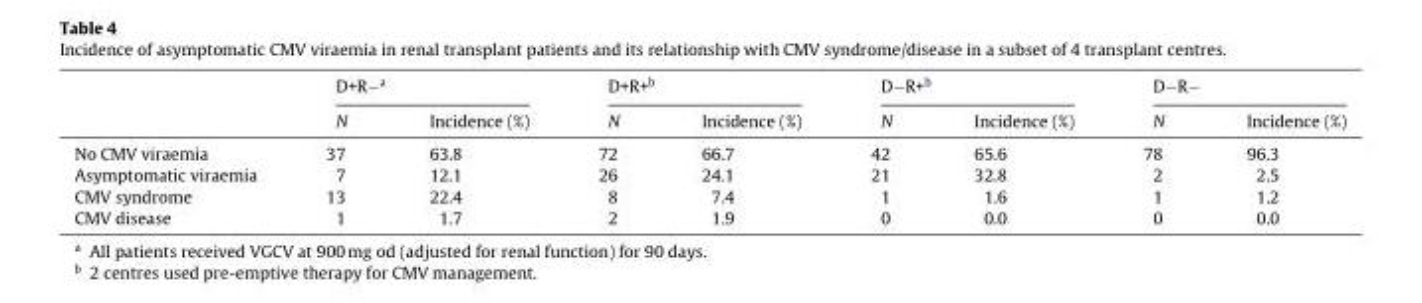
<table><thead><tr><td rowspan="2"></td><td colspan="2">D+R−a</td><td colspan="2">D+R+<sup>b</sup></td><td colspan="2">D−R+<sup>b</sup></td><td colspan="2">D−R−</td></tr><tr><td>N</td><td>Incidence (%)</td><td>N</td><td>Incidence (%)</td><td>N</td><td>Incidence (%)</td><td>N</td><td>Incidence (%)</td></tr></thead><tbody><tr><td>No CMV viraemia</td><td>37</td><td>63.8</td><td>72</td><td>66.7</td><td>42</td><td>65.6</td><td>78</td><td>96.3</td></tr><tr><td>Asymptomatic viraemia</td><td>7</td><td>12.1</td><td>26</td><td>24.1</td><td>21</td><td>32.8</td><td>2</td><td>2.5</td></tr><tr><td>CMV syndrome</td><td>13</td><td>22.4</td><td>8</td><td>7.4</td><td>1</td><td>1.6</td><td>1</td><td>1.2</td></tr><tr><td>CMV disease</td><td>1</td><td>1.7</td><td>2</td><td>1.9</td><td>0</td><td>0.0</td><td>0</td><td>0.0</td></tr></tbody></table>